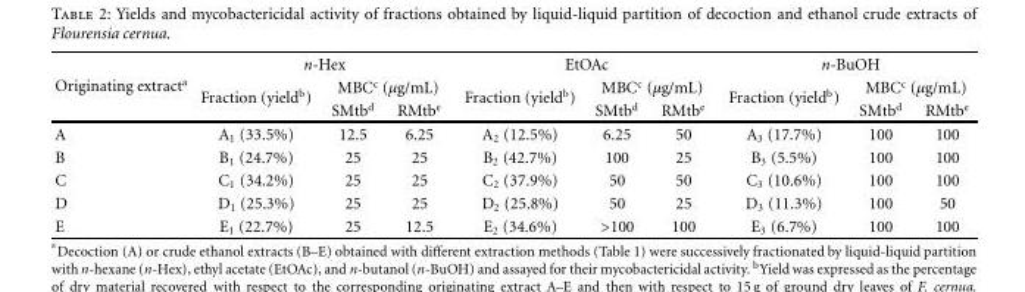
<table><thead><tr><td rowspan="3">Originating extract<sup>a</sup></td><td colspan="3">n-Hex</td><td colspan="3">EtOAc</td><td colspan="3">n-BuOH</td></tr><tr><td rowspan="2">Fraction (yield<sup>b</sup>)</td><td colspan="2">MBC<sup>c</sup> (µg/mL)</td><td rowspan="2">Fraction (yield<sup>b</sup>)</td><td colspan="2">MBC<sup>c</sup> (µg/mL)</td><td rowspan="2">Fraction (yield<sup>b</sup>)</td><td colspan="2">MBC<sup>c</sup> (µg/mL)</td></tr><tr><td>SMtb<sup>d</sup></td><td>RMtb<sup>e</sup></td><td>SMtb<sup>d</sup></td><td>RMtb<sup>e</sup></td><td>SMtb<sup>d</sup></td><td>RMtb<sup>e</sup></td></tr></thead><tbody><tr><td>A</td><td>A<sub>1</sub> (33.5%)</td><td>12.5</td><td>6.25</td><td>A<sub>2</sub> (12.5%)</td><td>6.25</td><td>50</td><td>A<sub>3</sub> (17.7%)</td><td>100</td><td>100</td></tr><tr><td>B</td><td>B<sub>1</sub> (24.7%)</td><td>25</td><td>25</td><td>B<sub>2</sub> (42.7%)</td><td>100</td><td>25</td><td>B<sub>3</sub> (5.5%)</td><td>100</td><td>100</td></tr><tr><td>C</td><td>C<sub>1</sub> (34.2%)</td><td>25</td><td>25</td><td>C<sub>2</sub> (37.9%)</td><td>50</td><td>50</td><td>C<sub>3</sub> (10.6%)</td><td>100</td><td>100</td></tr><tr><td>D</td><td>D<sub>1</sub> (25.3%)</td><td>25</td><td>25</td><td>D<sub>2</sub> (25.8%)</td><td>50</td><td>25</td><td>D<sub>3</sub> (11.3%)</td><td>100</td><td>50</td></tr><tr><td>E</td><td>E<sub>1</sub> (22.7%)</td><td>25</td><td>12.5</td><td>E<sub>2</sub> (34.6%)</td><td>&gt;100</td><td>100</td><td>E<sub>3</sub> (6.7%)</td><td>100</td><td>100</td></tr></tbody></table>